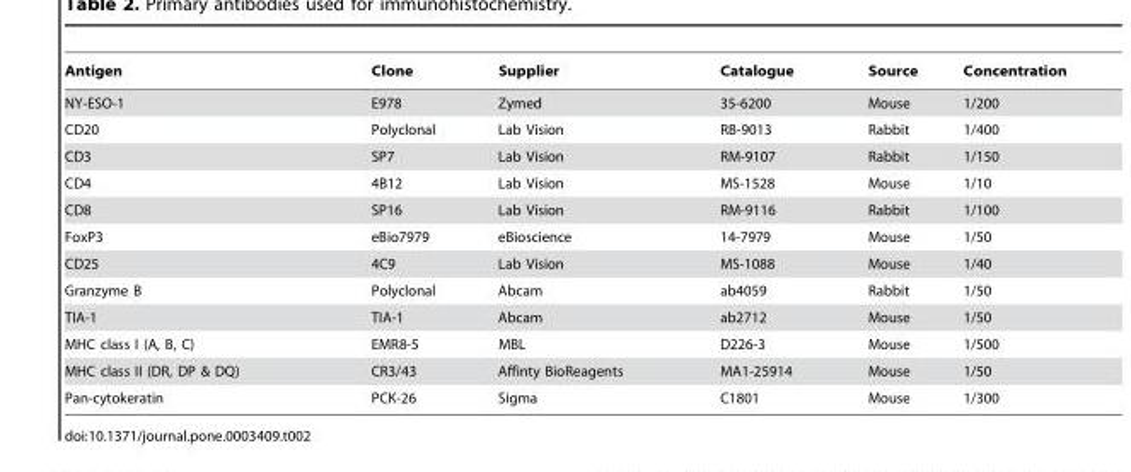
<table><thead><tr><td>Antigen</td><td>Clone</td><td>Supplier</td><td>Catalogue</td><td>Source</td><td>Concentration</td></tr></thead><tbody><tr><td>NY-ESO-1</td><td>E978</td><td>Zymed</td><td>35-6200</td><td>Mouse</td><td>1/200</td></tr><tr><td>CD20</td><td>Polyclonal</td><td>Lab Vision</td><td>RB-9013</td><td>Rabbit</td><td>1/400</td></tr><tr><td>CD3</td><td>SP7</td><td>Lab Vision</td><td>RM-9107</td><td>Rabbit</td><td>1/150</td></tr><tr><td>CD4</td><td>4B12</td><td>Lab Vision</td><td>MS-1528</td><td>Mouse</td><td>1/10</td></tr><tr><td>CD8</td><td>SP16</td><td>Lab Vision</td><td>RM-9116</td><td>Rabbit</td><td>1/100</td></tr><tr><td>FoxP3</td><td>eBio7979</td><td>eBioscience</td><td>14-7979</td><td>Mouse</td><td>1/50</td></tr><tr><td>CD25</td><td>4C9</td><td>Lab Vision</td><td>MS-1088</td><td>Mouse</td><td>1/40</td></tr><tr><td>Granzyme B</td><td>Polyclonal</td><td>Abcam</td><td>ab4059</td><td>Rabbit</td><td>1/50</td></tr><tr><td>TIA-1</td><td>TIA-1</td><td>Abcam</td><td>ab2712</td><td>Mouse</td><td>1/50</td></tr><tr><td>MHC class I (A, B, C)</td><td>EMR8-5</td><td>MBL</td><td>D226-3</td><td>Mouse</td><td>1/500</td></tr><tr><td>MHC class II (DR, DP &amp; DQ)</td><td>CR3/43</td><td>Affinty BioReagents</td><td>MA1-25914</td><td>Mouse</td><td>1/50</td></tr><tr><td>Pan-cytokeratin</td><td>PCK-26</td><td>Sigma</td><td>C1801</td><td>Mouse</td><td>1/300</td></tr></tbody></table>